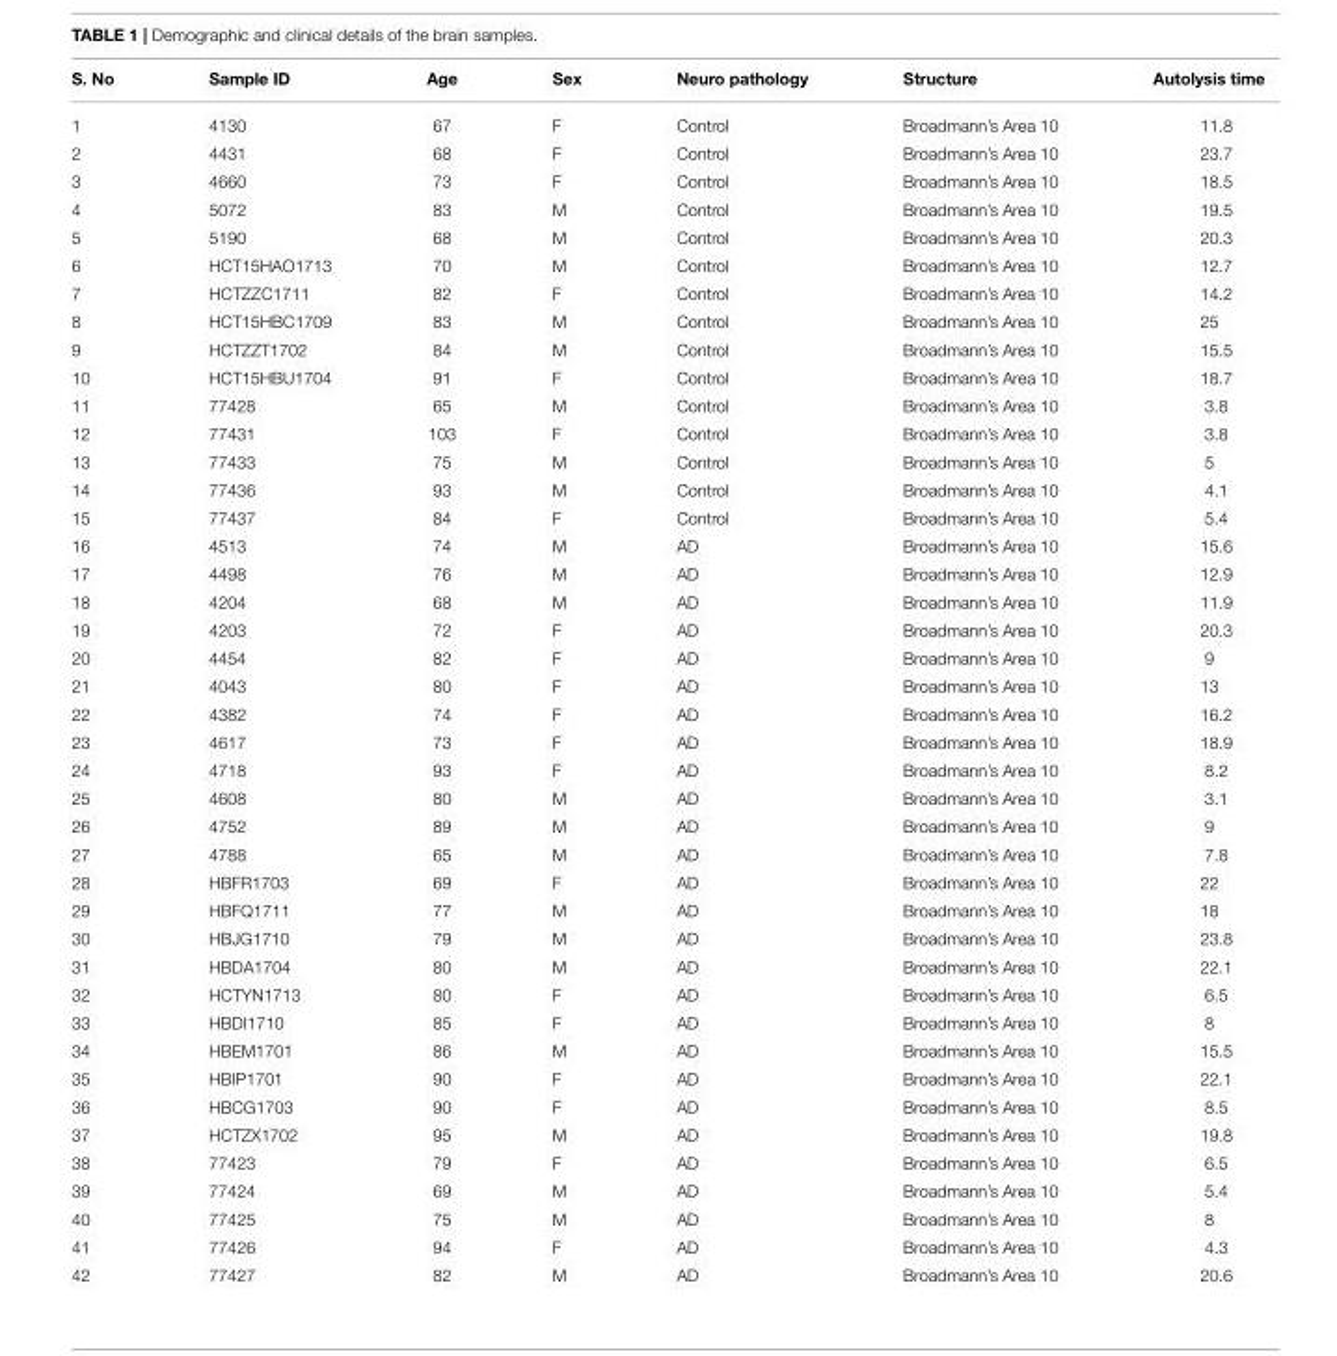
<table><thead><tr><td>S. No</td><td>Sample ID</td><td>Age</td><td>Sex</td><td>Neuro pathology</td><td>Structure</td><td>Autolysis time</td></tr></thead><tbody><tr><td>1</td><td>4130</td><td>67</td><td>F</td><td>Control</td><td>Broadmann’s Area 10</td><td>11.8</td></tr><tr><td>2</td><td>4431</td><td>68</td><td>F</td><td>Control</td><td>Broadmann’s Area 10</td><td>23.7</td></tr><tr><td>3</td><td>4660</td><td>73</td><td>F</td><td>Control</td><td>Broadmann’s Area 10</td><td>18.5</td></tr><tr><td>4</td><td>5072</td><td>83</td><td>M</td><td>Control</td><td>Broadmann’s Area 10</td><td>19.5</td></tr><tr><td>5</td><td>5190</td><td>68</td><td>M</td><td>Control</td><td>Broadmann’s Area 10</td><td>20.3</td></tr><tr><td>6</td><td>HCT15HAO1713</td><td>70</td><td>M</td><td>Control</td><td>Broadmann’s Area 10</td><td>12.7</td></tr><tr><td>7</td><td>HCTZZC1711</td><td>82</td><td>F</td><td>Control</td><td>Broadmann’s Area 10</td><td>14.2</td></tr><tr><td>8</td><td>HCT15HBC1709</td><td>83</td><td>M</td><td>Control</td><td>Broadmann’s Area 10</td><td>25</td></tr><tr><td>9</td><td>HCTZZT1702</td><td>84</td><td>M</td><td>Control</td><td>Broadmann’s Area 10</td><td>15.5</td></tr><tr><td>10</td><td>HCT15HBU1704</td><td>91</td><td>F</td><td>Control</td><td>Broadmann’s Area 10</td><td>18.7</td></tr><tr><td>11</td><td>77428</td><td>65</td><td>M</td><td>Control</td><td>Broadmann’s Area 10</td><td>3.8</td></tr><tr><td>12</td><td>77431</td><td>103</td><td>F</td><td>Control</td><td>Broadmann’s Area 10</td><td>3.8</td></tr><tr><td>13</td><td>77433</td><td>75</td><td>M</td><td>Control</td><td>Broadmann’s Area 10</td><td>5</td></tr><tr><td>14</td><td>77436</td><td>93</td><td>M</td><td>Control</td><td>Broadmann’s Area 10</td><td>4.1</td></tr><tr><td>15</td><td>77437</td><td>84</td><td>F</td><td>Control</td><td>Broadmann’s Area 10</td><td>5.4</td></tr><tr><td>16</td><td>4513</td><td>74</td><td>M</td><td>AD</td><td>Broadmann’s Area 10</td><td>15.6</td></tr><tr><td>17</td><td>4498</td><td>76</td><td>M</td><td>AD</td><td>Broadmann’s Area 10</td><td>12.9</td></tr><tr><td>18</td><td>4204</td><td>68</td><td>M</td><td>AD</td><td>Broadmann’s Area 10</td><td>11.9</td></tr><tr><td>19</td><td>4203</td><td>72</td><td>F</td><td>AD</td><td>Broadmann’s Area 10</td><td>20.3</td></tr><tr><td>20</td><td>4454</td><td>82</td><td>F</td><td>AD</td><td>Broadmann’s Area 10</td><td>9</td></tr><tr><td>21</td><td>4043</td><td>80</td><td>F</td><td>AD</td><td>Broadmann’s Area 10</td><td>13</td></tr><tr><td>22</td><td>4382</td><td>74</td><td>F</td><td>AD</td><td>Broadmann’s Area 10</td><td>16.2</td></tr><tr><td>23</td><td>4617</td><td>73</td><td>F</td><td>AD</td><td>Broadmann’s Area 10</td><td>18.9</td></tr><tr><td>24</td><td>4718</td><td>93</td><td>F</td><td>AD</td><td>Broadmann’s Area 10</td><td>8.2</td></tr><tr><td>25</td><td>4608</td><td>80</td><td>M</td><td>AD</td><td>Broadmann’s Area 10</td><td>3.1</td></tr><tr><td>26</td><td>4752</td><td>89</td><td>M</td><td>AD</td><td>Broadmann’s Area 10</td><td>9</td></tr><tr><td>27</td><td>4788</td><td>65</td><td>M</td><td>AD</td><td>Broadmann’s Area 10</td><td>7.8</td></tr><tr><td>28</td><td>HBFR1703</td><td>69</td><td>F</td><td>AD</td><td>Broadmann’s Area 10</td><td>22</td></tr><tr><td>29</td><td>HBFQ1711</td><td>77</td><td>M</td><td>AD</td><td>Broadmann’s Area 10</td><td>18</td></tr><tr><td>30</td><td>HBJG1710</td><td>79</td><td>M</td><td>AD</td><td>Broadmann’s Area 10</td><td>23.8</td></tr><tr><td>31</td><td>HBDA1704</td><td>80</td><td>M</td><td>AD</td><td>Broadmann’s Area 10</td><td>22.1</td></tr><tr><td>32</td><td>HCTYN1713</td><td>80</td><td>F</td><td>AD</td><td>Broadmann’s Area 10</td><td>6.5</td></tr><tr><td>33</td><td>HBDI1710</td><td>85</td><td>F</td><td>AD</td><td>Broadmann’s Area 10</td><td>8</td></tr><tr><td>34</td><td>HBEM1701</td><td>86</td><td>M</td><td>AD</td><td>Broadmann’s Area 10</td><td>15.5</td></tr><tr><td>35</td><td>HBIP1701</td><td>90</td><td>F</td><td>AD</td><td>Broadmann’s Area 10</td><td>22.1</td></tr><tr><td>36</td><td>HBCG1703</td><td>90</td><td>F</td><td>AD</td><td>Broadmann’s Area 10</td><td>8.5</td></tr><tr><td>37</td><td>HCTZX1702</td><td>95</td><td>M</td><td>AD</td><td>Broadmann’s Area 10</td><td>19.8</td></tr><tr><td>38</td><td>77423</td><td>79</td><td>F</td><td>AD</td><td>Broadmann’s Area 10</td><td>6.5</td></tr><tr><td>39</td><td>77424</td><td>69</td><td>M</td><td>AD</td><td>Broadmann’s Area 10</td><td>5.4</td></tr><tr><td>40</td><td>77425</td><td>75</td><td>M</td><td>AD</td><td>Broadmann’s Area 10</td><td>8</td></tr><tr><td>41</td><td>77426</td><td>94</td><td>F</td><td>AD</td><td>Broadmann’s Area 10</td><td>4.3</td></tr><tr><td>42</td><td>77427</td><td>82</td><td>M</td><td>AD</td><td>Broadmann’s Area 10</td><td>20.6</td></tr></tbody></table>